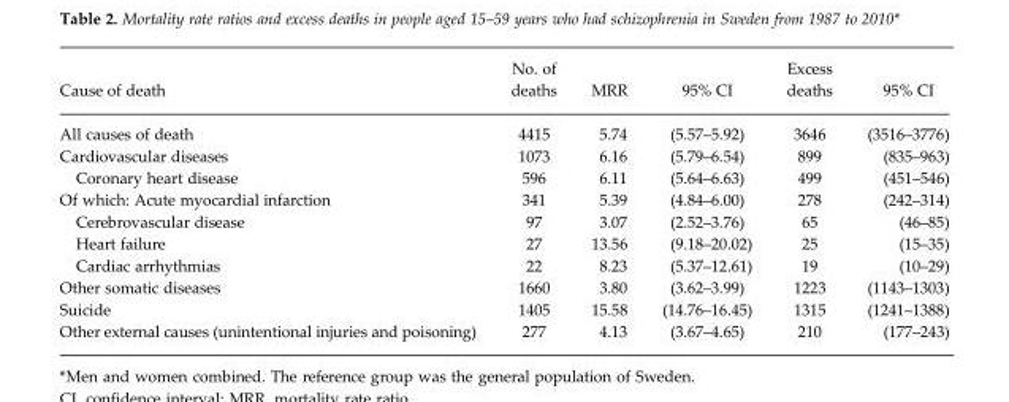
<table><thead><tr><td>Cause of death</td><td>No. of deaths</td><td>MRR</td><td>95% CI</td><td>Excess deaths</td><td>95% CI</td></tr></thead><tbody><tr><td>All causes of death</td><td>4415</td><td>5.74</td><td>(5.57–5.92)</td><td>3646</td><td>(3516–3776)</td></tr><tr><td>Cardiovascular diseases</td><td>1073</td><td>6.16</td><td>(5.79–6.54)</td><td>899</td><td>(835–963)</td></tr><tr><td>Coronary heart disease</td><td>596</td><td>6.11</td><td>(5.64–6.63)</td><td>499</td><td>(451–546)</td></tr><tr><td>Of which: Acute myocardial infarction</td><td>341</td><td>5.39</td><td>(4.84–6.00)</td><td>278</td><td>(242–314)</td></tr><tr><td>Cerebrovascular disease</td><td>97</td><td>3.07</td><td>(2.52–3.76)</td><td>65</td><td>(46–85)</td></tr><tr><td>Heart failure</td><td>27</td><td>13.56</td><td>(9.18–20.02)</td><td>25</td><td>(15–35)</td></tr><tr><td>Cardiac arrhythmias</td><td>22</td><td>8.23</td><td>(5.37–12.61)</td><td>19</td><td>(10–29)</td></tr><tr><td>Other somatic diseases</td><td>1660</td><td>3.80</td><td>(3.62–3.99)</td><td>1223</td><td>(1143–1303)</td></tr><tr><td>Suicide</td><td>1405</td><td>15.58</td><td>(14.76–16.45)</td><td>1315</td><td>(1241–1388)</td></tr><tr><td>Other external causes (unintentional injuries and poisoning)</td><td>277</td><td>4.13</td><td>(3.67–4.65)</td><td>210</td><td>(177–243)</td></tr></tbody></table>